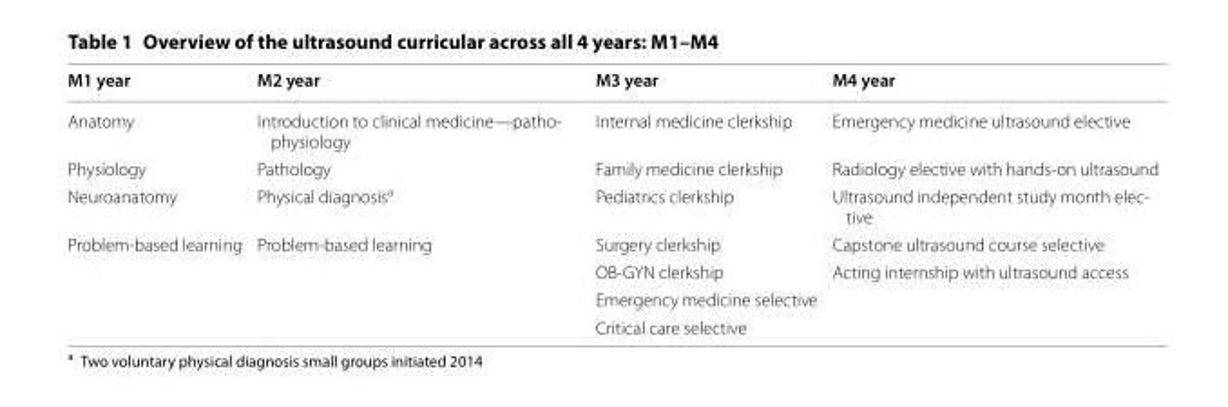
<table><thead><tr><td>M1 year</td><td>M2 year</td><td>M3 year</td><td>M4 year</td></tr></thead><tbody><tr><td>Anatomy</td><td>Introduction to clinical medicine—patho- physiology</td><td>Internal medicine clerkship</td><td>Emergency medicine ultrasound elective</td></tr><tr><td>Physiology</td><td>Pathology</td><td>Family medicine clerkship</td><td>Radiology elective with hands-on ultrasound</td></tr><tr><td>Neuroanatomy</td><td>Physical diagnosis<sup>a</sup></td><td>Pediatrics clerkship</td><td>Ultrasound independent study month elec- tive</td></tr><tr><td rowspan="4">Problem-based learning</td><td>Problem-based learning</td><td>Surgery clerkship</td><td>Capstone ultrasound course selective</td></tr><tr><td></td><td>OB-GYN clerkship</td><td>Acting internship with ultrasound access</td></tr><tr><td></td><td>Emergency medicine selective</td><td></td></tr><tr><td></td><td>Critical care selective</td><td></td></tr></tbody></table>